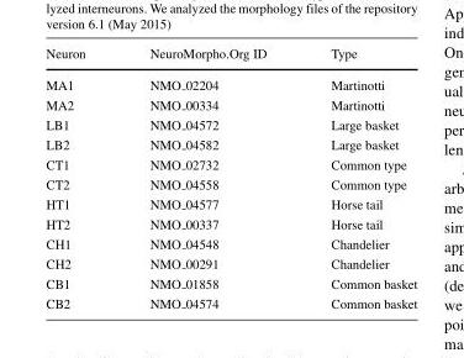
<table><thead><tr><td>Neuron</td><td>NeuroMorpho.Org ID</td><td>Type</td></tr></thead><tbody><tr><td>MA1</td><td>NMO 02204</td><td>Martinotti</td></tr><tr><td>MA2</td><td>NMO 00334</td><td>Martinotti</td></tr><tr><td>LB1</td><td>NMO 04572</td><td>Large basket</td></tr><tr><td>LB2</td><td>NMO 04582</td><td>Large basket</td></tr><tr><td>CT1</td><td>NMO 02732</td><td>Common type</td></tr><tr><td>CT2</td><td>NMO 04558</td><td>Common type</td></tr><tr><td>HT1</td><td>NMO 04577</td><td>Horse tail</td></tr><tr><td>HT2</td><td>NMO 00337</td><td>Horse tail</td></tr><tr><td>CH1</td><td>NMO 04548</td><td>Chandelier</td></tr><tr><td>CH2</td><td>NMO 00291</td><td>Chandelier</td></tr><tr><td>CB1</td><td>NMO 01858</td><td>Common basket</td></tr><tr><td>CB2</td><td>NMO 04574</td><td>Common basket</td></tr></tbody></table>